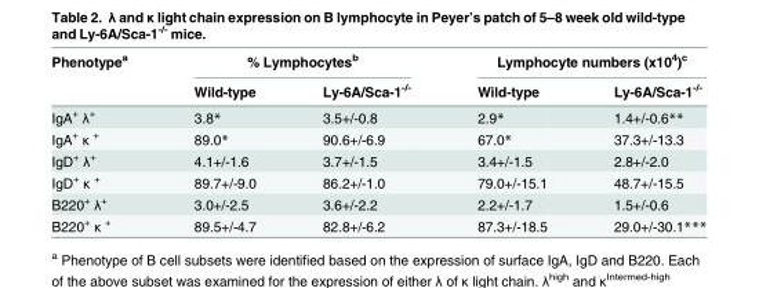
<table><thead><tr><td rowspan="2">Phenotype<sup>a</sup></td><td colspan="2">% Lymphocytes<sup>b</sup></td><td colspan="2">Lymphocyte numbers (x10<sup>4</sup>)<sup>c</sup></td></tr><tr><td>Wild-type</td><td>Ly-6A/Sca-1<sup>-/-</sup></td><td>Wild-type</td><td>Ly-6A/Sca-1<sup>-/-</sup></td></tr></thead><tbody><tr><td>IgA<sup>+</sup> λ<sup>+</sup></td><td>3.8*</td><td>3.5+/-0.8</td><td>2.9*</td><td>1.4+/-0.6**</td></tr><tr><td>IgA<sup>+</sup> κ <sup>+</sup></td><td>89.0*</td><td>90.6+/-6.9</td><td>67.0*</td><td>37.3+/-13.3</td></tr><tr><td>IgD<sup>+</sup> λ<sup>+</sup></td><td>4.1+/-1.6</td><td>3.7+/-1.5</td><td>3.4+/-1.5</td><td>2.8+/-2.0</td></tr><tr><td>IgD<sup>+</sup> κ <sup>+</sup></td><td>89.7+/-9.0</td><td>86.2+/-1.0</td><td>79.0+/-15.1</td><td>48.7+/-15.5</td></tr><tr><td>B220<sup>+</sup> λ<sup>+</sup></td><td>3.0+/-2.5</td><td>3.6+/-2.2</td><td>2.2+/-1.7</td><td>1.5+/-0.6</td></tr><tr><td>B220<sup>+</sup> κ <sup>+</sup></td><td>89.5+/-4.7</td><td>82.8+/-6.2</td><td>87.3+/-18.5</td><td>29.0+/-30.1***</td></tr></tbody></table>